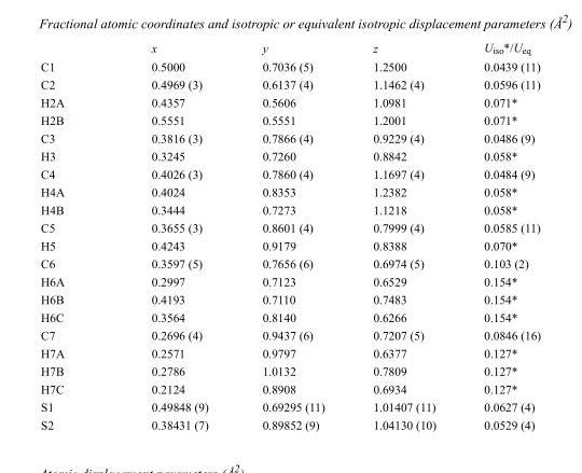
<table><thead><tr><td></td><td>x</td><td>y</td><td>z</td><td>U<sub>iso</sub>*/U<sub>eq</sub></td></tr></thead><tbody><tr><td>C1</td><td>0.5000</td><td>0.7036 (5)</td><td>1.2500</td><td>0.0439 (11)</td></tr><tr><td>C2</td><td>0.4969 (3)</td><td>0.6137 (4)</td><td>1.1462 (4)</td><td>0.0596 (11)</td></tr><tr><td>H2A</td><td>0.4357</td><td>0.5606</td><td>1.0981</td><td>0.071*</td></tr><tr><td>H2B</td><td>0.5551</td><td>0.5551</td><td>1.2001</td><td>0.071*</td></tr><tr><td>C3</td><td>0.3816 (3)</td><td>0.7866 (4)</td><td>0.9229 (4)</td><td>0.0486 (9)</td></tr><tr><td>H3</td><td>0.3245</td><td>0.7260</td><td>0.8842</td><td>0.058*</td></tr><tr><td>C4</td><td>0.4026 (3)</td><td>0.7860 (4)</td><td>1.1697 (4)</td><td>0.0484 (9)</td></tr><tr><td>H4A</td><td>0.4024</td><td>0.8353</td><td>1.2382</td><td>0.058*</td></tr><tr><td>H4B</td><td>0.3444</td><td>0.7273</td><td>1.1218</td><td>0.058*</td></tr><tr><td>C5</td><td>0.3655 (3)</td><td>0.8601 (4)</td><td>0.7999 (4)</td><td>0.0585 (11)</td></tr><tr><td>H5</td><td>0.4243</td><td>0.9179</td><td>0.8388</td><td>0.070*</td></tr><tr><td>C6</td><td>0.3597 (5)</td><td>0.7656 (6)</td><td>0.6974 (5)</td><td>0.103 (2)</td></tr><tr><td>H6A</td><td>0.2997</td><td>0.7123</td><td>0.6529</td><td>0.154*</td></tr><tr><td>H6B</td><td>0.4193</td><td>0.7110</td><td>0.7483</td><td>0.154*</td></tr><tr><td>H6C</td><td>0.3564</td><td>0.8140</td><td>0.6266</td><td>0.154*</td></tr><tr><td>C7</td><td>0.2696 (4)</td><td>0.9437 (6)</td><td>0.7207 (5)</td><td>0.0846 (16)</td></tr><tr><td>H7A</td><td>0.2571</td><td>0.9797</td><td>0.6377</td><td>0.127*</td></tr><tr><td>H7B</td><td>0.2786</td><td>1.0132</td><td>0.7809</td><td>0.127*</td></tr><tr><td>H7C</td><td>0.2124</td><td>0.8908</td><td>0.6934</td><td>0.127*</td></tr><tr><td>S1</td><td>0.49848 (9)</td><td>0.69295 (11)</td><td>1.01407 (11)</td><td>0.0627 (4)</td></tr><tr><td>S2</td><td>0.38431 (7)</td><td>0.89852 (9)</td><td>1.04130 (10)</td><td>0.0529 (4)</td></tr></tbody></table>